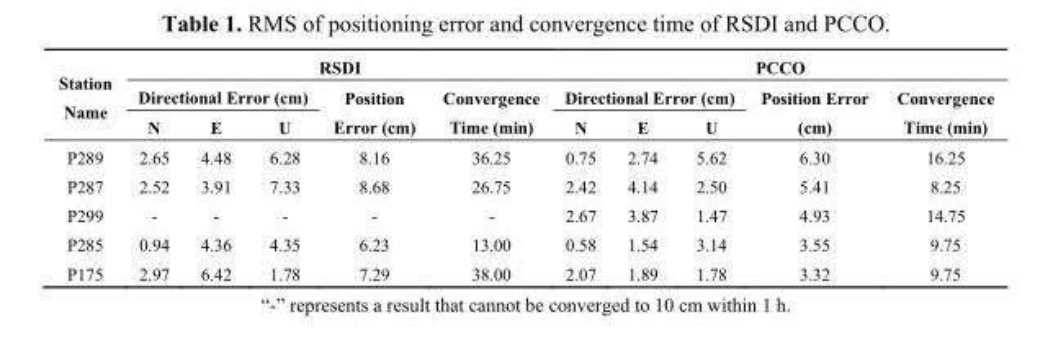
<table><thead><tr><td rowspan="3">Station Name</td><td colspan="5">RSDI</td><td colspan="5">PCCO</td></tr><tr><td colspan="3">Directional Error (cm)</td><td rowspan="2">Position Error (cm)</td><td rowspan="2">Convergence Time (min)</td><td colspan="3">Directional Error (cm)</td><td rowspan="2">Position Error (cm)</td><td rowspan="2">Convergence Time (min)</td></tr><tr><td>N</td><td>E</td><td>U</td><td>N</td><td>E</td><td>U</td></tr></thead><tbody><tr><td>P289</td><td>2.65</td><td>4.48</td><td>6.28</td><td>8.16</td><td>36.25</td><td>0.75</td><td>2.74</td><td>5.62</td><td>6.30</td><td>16.25</td></tr><tr><td>P287</td><td>2.52</td><td>3.91</td><td>7.33</td><td>8.68</td><td>26.75</td><td>2.42</td><td>4.14</td><td>2.50</td><td>5.41</td><td>8.25</td></tr><tr><td>P299</td><td>-</td><td>-</td><td>-</td><td>-</td><td>-</td><td>2.67</td><td>3.87</td><td>1.47</td><td>4.93</td><td>14.75</td></tr><tr><td>P285</td><td>0.94</td><td>4.36</td><td>4.35</td><td>6.23</td><td>13.00</td><td>0.58</td><td>1.54</td><td>3.14</td><td>3.55</td><td>9.75</td></tr><tr><td>P175</td><td>2.97</td><td>6.42</td><td>1.78</td><td>7.29</td><td>38.00</td><td>2.07</td><td>1.89</td><td>1.78</td><td>3.32</td><td>9.75</td></tr></tbody></table>